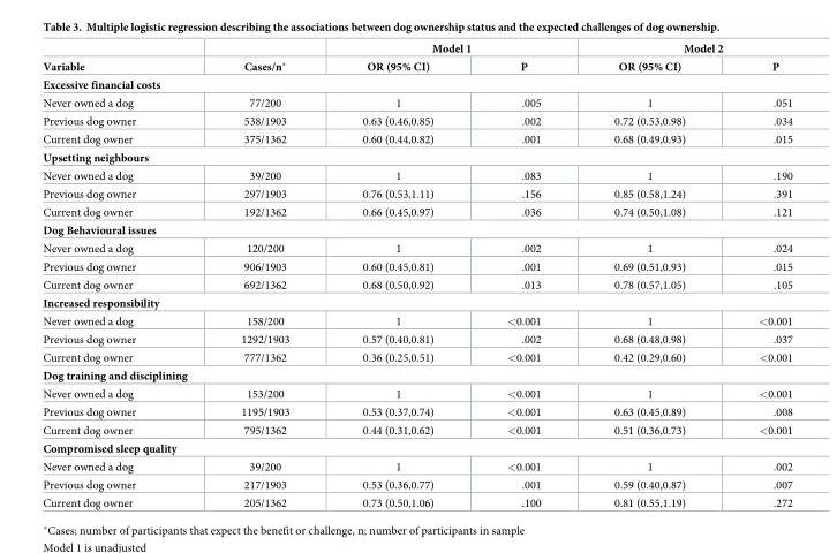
<table><thead><tr><td rowspan="2">Variable</td><td rowspan="2">Cases/n*</td><td colspan="2">Model 1</td><td colspan="2">Model 2</td></tr><tr><td>OR (95% CI)</td><td>P</td><td>OR (95% CI)</td><td>P</td></tr></thead><tbody><tr><td colspan="6">Excessive financial costs</td></tr><tr><td>Never owned a dog</td><td>77/200</td><td>1</td><td>.005</td><td>1</td><td>.051</td></tr><tr><td>Previous dog owner</td><td>538/1903</td><td>0.63 (0.46,0.85)</td><td>.002</td><td>0.72 (0.53,0.98)</td><td>.034</td></tr><tr><td>Current dog owner</td><td>375/1362</td><td>0.60 (0.44,0.82)</td><td>.001</td><td>0.68 (0.49,0.93)</td><td>.015</td></tr><tr><td colspan="6">Upsetting neighbours</td></tr><tr><td>Never owned a dog</td><td>39/200</td><td>1</td><td>.083</td><td>1</td><td>.190</td></tr><tr><td>Previous dog owner</td><td>297/1903</td><td>0.76 (0.53,1.11)</td><td>.156</td><td>0.85 (0.58,1.24)</td><td>.391</td></tr><tr><td>Current dog owner</td><td>192/1362</td><td>0.66 (0.45,0.97)</td><td>.036</td><td>0.74 (0.50,1.08)</td><td>.121</td></tr><tr><td colspan="6">Dog Behavioural issues</td></tr><tr><td>Never owned a dog</td><td>120/200</td><td>1</td><td>.002</td><td>1</td><td>.024</td></tr><tr><td>Previous dog owner</td><td>906/1903</td><td>0.60 (0.45,0.81)</td><td>.001</td><td>0.69 (0.51,0.93)</td><td>.015</td></tr><tr><td>Current dog owner</td><td>692/1362</td><td>0.68 (0.50,0.92)</td><td>.013</td><td>0.78 (0.57,1.05)</td><td>.105</td></tr><tr><td colspan="6">Increased responsibility</td></tr><tr><td>Never owned a dog</td><td>158/200</td><td>1</td><td>&lt;0.001</td><td>1</td><td>&lt;0.001</td></tr><tr><td>Previous dog owner</td><td>1292/1903</td><td>0.57 (0.40,0.81)</td><td>.002</td><td>0.68 (0.48,0.98)</td><td>.037</td></tr><tr><td>Current dog owner</td><td>777/1362</td><td>0.36 (0.25,0.51)</td><td>&lt;0.001</td><td>0.42 (0.29,0.60)</td><td>&lt;0.001</td></tr><tr><td colspan="6">Dog training and disciplining</td></tr><tr><td>Never owned a dog</td><td>153/200</td><td>1</td><td>&lt;0.001</td><td>1</td><td>&lt;0.001</td></tr><tr><td>Previous dog owner</td><td>1195/1903</td><td>0.53 (0.37,0.74)</td><td>&lt;0.001</td><td>0.63 (0.45,0.89)</td><td>.008</td></tr><tr><td>Current dog owner</td><td>795/1362</td><td>0.44 (0.31,0.62)</td><td>&lt;0.001</td><td>0.51 (0.36,0.73)</td><td>&lt;0.001</td></tr><tr><td colspan="6">Compromised sleep quality</td></tr><tr><td>Never owned a dog</td><td>39/200</td><td>1</td><td>&lt;0.001</td><td>1</td><td>.002</td></tr><tr><td>Previous dog owner</td><td>217/1903</td><td>0.53 (0.36,0.77)</td><td>.001</td><td>0.59 (0.40,0.87)</td><td>.007</td></tr><tr><td>Current dog owner</td><td>205/1362</td><td>0.73 (0.50,1.06)</td><td>.100</td><td>0.81 (0.55,1.19)</td><td>.272</td></tr></tbody></table>